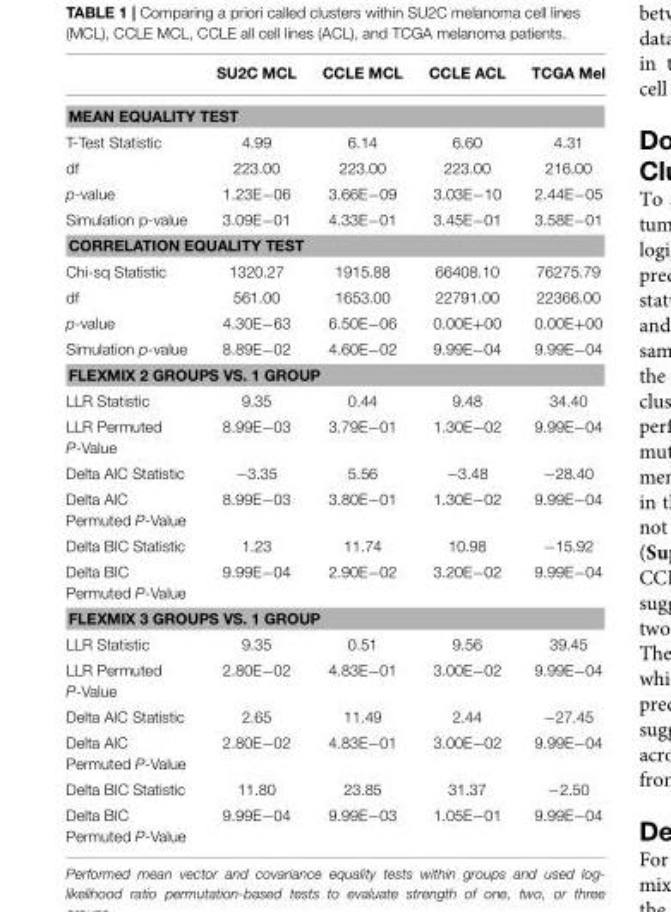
<table><thead><tr><td></td><td>SU2C MCL</td><td>CCLE MCL</td><td>CCLE ACL</td><td>TCGA Mel</td></tr></thead><tbody><tr><td colspan="5">MEAN EQUALITY TEST</td></tr><tr><td>T-Test Statistic</td><td>4.99</td><td>6.14</td><td>6.60</td><td>4.31</td></tr><tr><td>df</td><td>223.00</td><td>223.00</td><td>223.00</td><td>216.00</td></tr><tr><td>p-value</td><td>1.23E−06</td><td>3.66E−09</td><td>3.03E−10</td><td>2.44E−05</td></tr><tr><td>Simulation p-value</td><td>3.09E−01</td><td>4.33E−01</td><td>3.45E−01</td><td>3.58E−01</td></tr><tr><td colspan="5">CORRELATION EQUALITY TEST</td></tr><tr><td>Chi-sq Statistic</td><td>1320.27</td><td>1915.88</td><td>66408.10</td><td>76275.79</td></tr><tr><td>df</td><td>561.00</td><td>1653.00</td><td>22791.00</td><td>22366.00</td></tr><tr><td>p-value</td><td>4.30E−63</td><td>6.50E−06</td><td>0.00E+00</td><td>0.00E+00</td></tr><tr><td>Simulation p-value</td><td>8.89E−02</td><td>4.60E−02</td><td>9.99E−04</td><td>9.99E−04</td></tr><tr><td colspan="5">FLEXMIX 2 GROUPS VS. 1 GROUP</td></tr><tr><td>LLR Statistic</td><td>9.35</td><td>0.44</td><td>9.48</td><td>34.40</td></tr><tr><td>LLR Permuted P-Value</td><td>8.99E−03</td><td>3.79E−01</td><td>1.30E−02</td><td>9.99E−04</td></tr><tr><td>Delta AIC Statistic</td><td>−3.35</td><td>5.56</td><td>−3.48</td><td>−28.40</td></tr><tr><td>Delta AIC Permuted P-Value</td><td>8.99E−03</td><td>3.80E−01</td><td>1.30E−02</td><td>9.99E−04</td></tr><tr><td>Delta BIC Statistic</td><td>1.23</td><td>11.74</td><td>10.98</td><td>−15.92</td></tr><tr><td>Delta BIC Permuted P-Value</td><td>9.99E−04</td><td>2.90E−02</td><td>3.20E−02</td><td>9.99E−04</td></tr><tr><td colspan="5">FLEXMIX 3 GROUPS VS. 1 GROUP</td></tr><tr><td>LLR Statistic</td><td>9.35</td><td>0.51</td><td>9.56</td><td>39.45</td></tr><tr><td>LLR Permuted P-Value</td><td>2.80E−02</td><td>4.83E−01</td><td>3.00E−02</td><td>9.99E−04</td></tr><tr><td>Delta AIC Statistic</td><td>2.65</td><td>11.49</td><td>2.44</td><td>−27.45</td></tr><tr><td>Delta AIC Permuted P-Value</td><td>2.80E−02</td><td>4.83E−01</td><td>3.00E−02</td><td>9.99E−04</td></tr><tr><td>Delta BIC Statistic</td><td>11.80</td><td>23.85</td><td>31.37</td><td>−2.50</td></tr><tr><td>Delta BIC Permuted P-Value</td><td>9.99E−04</td><td>9.99E−03</td><td>1.05E−01</td><td>9.99E−04</td></tr></tbody></table>